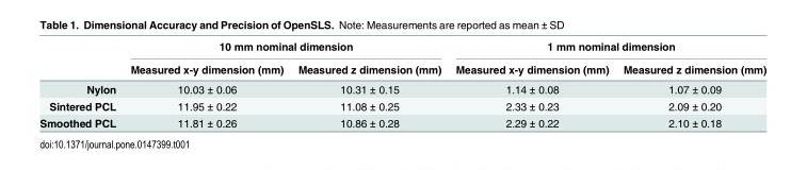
<table><thead><tr><td rowspan="2"></td><td colspan="2">10 mm nominal dimension</td><td colspan="2">1 mm nominal dimension</td></tr><tr><td>Measured x-y dimension (mm)</td><td>Measured z dimension (mm)</td><td>Measured x-y dimension (mm)</td><td>Measured z dimension (mm)</td></tr></thead><tbody><tr><td>Nylon</td><td>10.03 ± 0.06</td><td>10.31 ± 0.15</td><td>1.14 ± 0.08</td><td>1.07 ± 0.09</td></tr><tr><td>Sintered PCL</td><td>11.95 ± 0.22</td><td>11.08 ± 0.25</td><td>2.33 ± 0.23</td><td>2.09 ± 0.20</td></tr><tr><td>Smoothed PCL</td><td>11.81 ± 0.26</td><td>10.86 ± 0.28</td><td>2.29 ± 0.22</td><td>2.10 ± 0.18</td></tr></tbody></table>